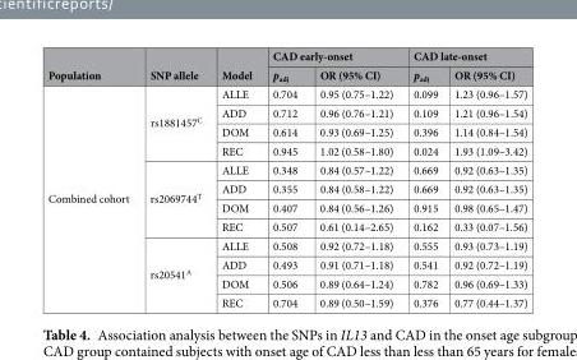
<table><thead><tr><td rowspan="2">Population</td><td rowspan="2">SNP allele</td><td rowspan="2">Model</td><td colspan="2">CAD early-onset</td><td colspan="2">CAD late-onset</td></tr><tr><td>p<sub>adj</sub></td><td>OR (95% CI)</td><td>p<sub>adj</sub></td><td>OR (95% CI)</td></tr></thead><tbody><tr><td rowspan="12">Combined cohort</td><td rowspan="4">rs1881457<sup>C</sup></td><td>ALLE</td><td>0.704</td><td>0.95 (0.75–1.22)</td><td>0.099</td><td>1.23 (0.96–1.57)</td></tr><tr><td>ADD</td><td>0.712</td><td>0.96 (0.76–1.21)</td><td>0.109</td><td>1.21 (0.96–1.54)</td></tr><tr><td>DOM</td><td>0.614</td><td>0.93 (0.69–1.25)</td><td>0.396</td><td>1.14 (0.84–1.54)</td></tr><tr><td>REC</td><td>0.945</td><td>1.02 (0.58–1.80)</td><td>0.024</td><td>1.93 (1.09–3.42)</td></tr><tr><td rowspan="4">rs2069744<sup>T</sup></td><td>ALLE</td><td>0.348</td><td>0.84 (0.57–1.22)</td><td>0.669</td><td>0.92 (0.63–1.35)</td></tr><tr><td>ADD</td><td>0.355</td><td>0.84 (0.58–1.22)</td><td>0.669</td><td>0.92 (0.63–1.35)</td></tr><tr><td>DOM</td><td>0.407</td><td>0.84 (0.56–1.26)</td><td>0.915</td><td>0.98 (0.65–1.47)</td></tr><tr><td>REC</td><td>0.507</td><td>0.61 (0.14–2.65)</td><td>0.162</td><td>0.33 (0.07–1.56)</td></tr><tr><td rowspan="4">rs20541<sup>A</sup></td><td>ALLE</td><td>0.508</td><td>0.92 (0.72–1.18)</td><td>0.555</td><td>0.93 (0.73–1.19)</td></tr><tr><td>ADD</td><td>0.493</td><td>0.91 (0.71–1.18)</td><td>0.541</td><td>0.92 (0.72–1.19)</td></tr><tr><td>DOM</td><td>0.506</td><td>0.89 (0.64–1.24)</td><td>0.782</td><td>0.96 (0.69–1.33)</td></tr><tr><td>REC</td><td>0.704</td><td>0.89 (0.50–1.59)</td><td>0.376</td><td>0.77 (0.44–1.37)</td></tr></tbody></table>